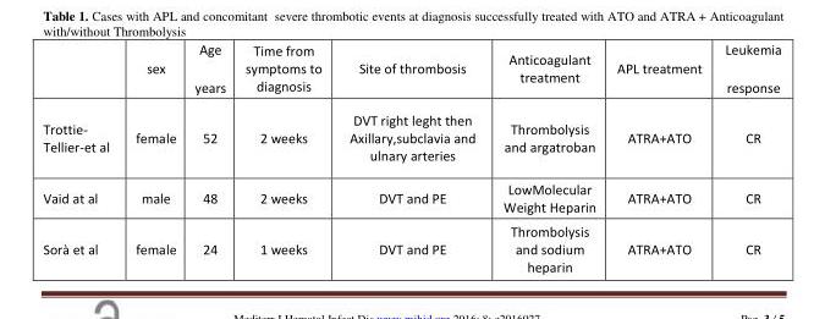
<table><thead><tr><td></td><td>sex</td><td>Age years</td><td>Time from symptoms to diagnosis</td><td>Site of thrombosis</td><td>Anticoagulant treatment</td><td>APL treatment</td><td>Leukemia response</td></tr></thead><tbody><tr><td>Trottie- Tellier-et al</td><td>female</td><td>52</td><td>2 weeks</td><td>DVT right leght then Axillary,subclavia and ulnary arteries</td><td>Thrombolysis and argatroban</td><td>ATRA+ATO</td><td>CR</td></tr><tr><td>Vaid at al</td><td>male</td><td>48</td><td>2 weeks</td><td>DVT and PE</td><td>LowMolecular Weight Heparin</td><td>ATRA+ATO</td><td>CR</td></tr><tr><td>Sorà et al</td><td>female</td><td>24</td><td>1 weeks</td><td>DVT and PE</td><td>Thrombolysis and sodium heparin</td><td>ATRA+ATO</td><td>CR</td></tr></tbody></table>